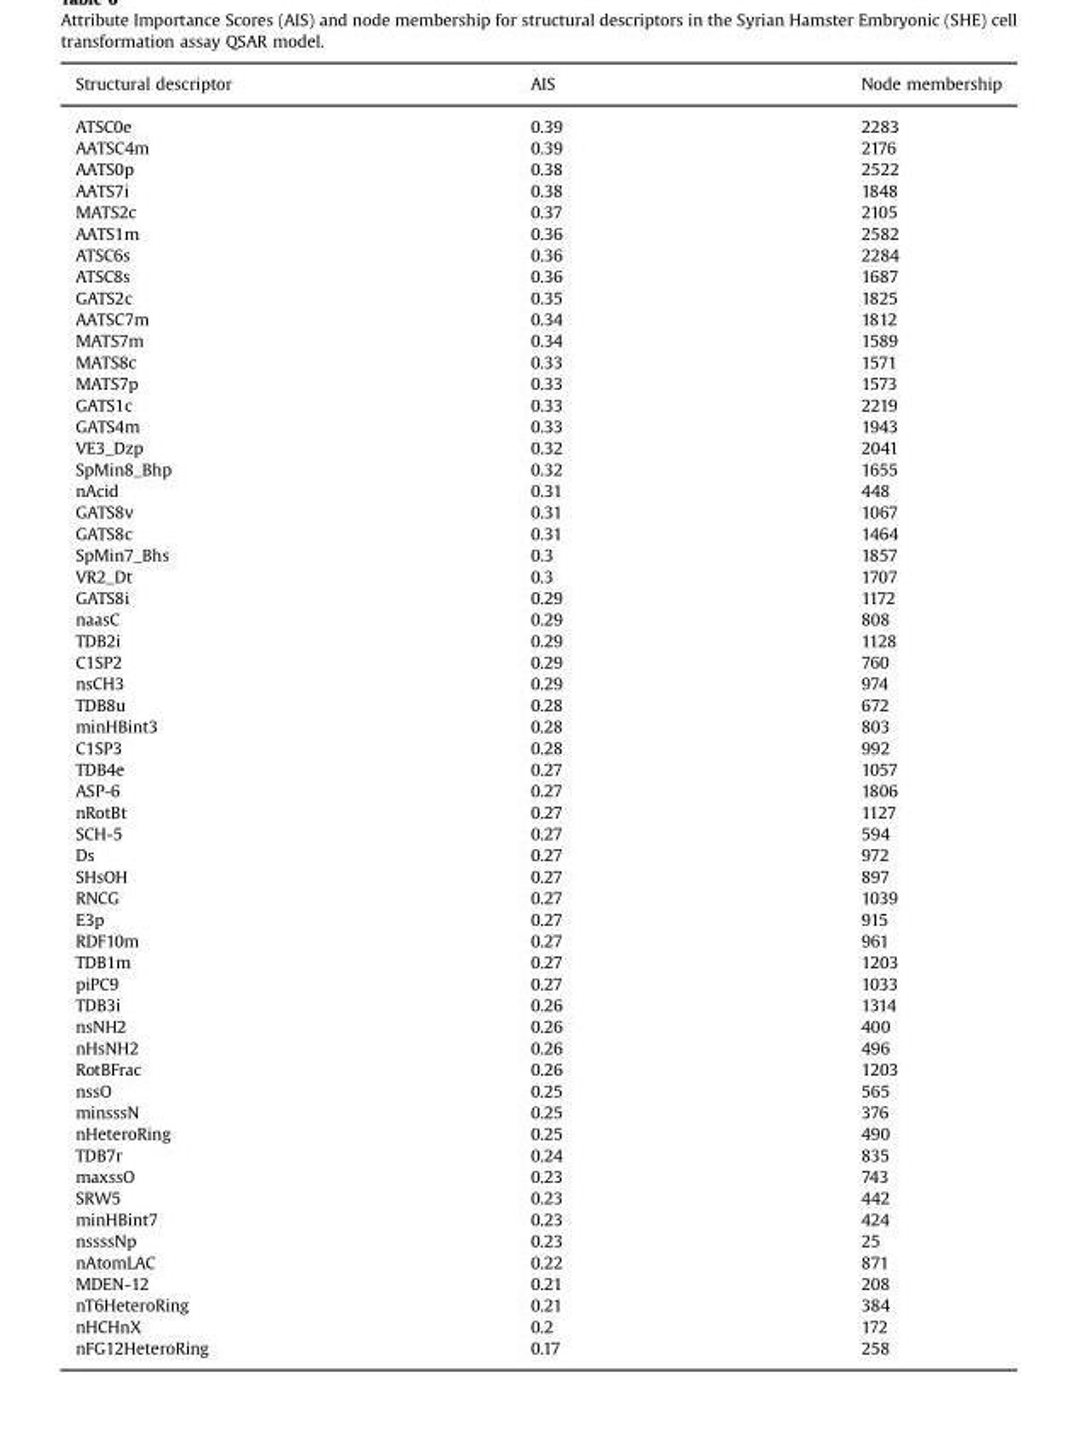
<table><thead><tr><td>Structural descriptor</td><td>AIS</td><td>Node membership</td></tr></thead><tbody><tr><td>ATSC0e</td><td>0.39</td><td>2283</td></tr><tr><td>AATSC4m</td><td>0.39</td><td>2176</td></tr><tr><td>AATS0p</td><td>0.38</td><td>2522</td></tr><tr><td>AATS7i</td><td>0.38</td><td>1848</td></tr><tr><td>MATS2c</td><td>0.37</td><td>2105</td></tr><tr><td>AATS1m</td><td>0.36</td><td>2582</td></tr><tr><td>ATSC6s</td><td>0.36</td><td>2284</td></tr><tr><td>ATSC8s</td><td>0.36</td><td>1687</td></tr><tr><td>GATS2c</td><td>0.35</td><td>1825</td></tr><tr><td>AATSC7m</td><td>0.34</td><td>1812</td></tr><tr><td>MATS7m</td><td>0.34</td><td>1589</td></tr><tr><td>MATS8c</td><td>0.33</td><td>1571</td></tr><tr><td>MATS7p</td><td>0.33</td><td>1573</td></tr><tr><td>GATS1c</td><td>0.33</td><td>2219</td></tr><tr><td>GATS4m</td><td>0.33</td><td>1943</td></tr><tr><td>VE3_Dzp</td><td>0.32</td><td>2041</td></tr><tr><td>SpMin8_Bhp</td><td>0.32</td><td>1655</td></tr><tr><td>nAcid</td><td>0.31</td><td>448</td></tr><tr><td>GATS8v</td><td>0.31</td><td>1067</td></tr><tr><td>GATS8c</td><td>0.31</td><td>1464</td></tr><tr><td>SpMin7_Bhs</td><td>0.3</td><td>1857</td></tr><tr><td>VR2_Dt</td><td>0.3</td><td>1707</td></tr><tr><td>GATS8i</td><td>0.29</td><td>1172</td></tr><tr><td>naasC</td><td>0.29</td><td>808</td></tr><tr><td>TDB2i</td><td>0.29</td><td>1128</td></tr><tr><td>C1SP2</td><td>0.29</td><td>760</td></tr><tr><td>nsCH3</td><td>0.29</td><td>974</td></tr><tr><td>TDB8u</td><td>0.28</td><td>672</td></tr><tr><td>minHBint3</td><td>0.28</td><td>803</td></tr><tr><td>C1SP3</td><td>0.28</td><td>992</td></tr><tr><td>TDB4e</td><td>0.27</td><td>1057</td></tr><tr><td>ASP-6</td><td>0.27</td><td>1806</td></tr><tr><td>nRotBt</td><td>0.27</td><td>1127</td></tr><tr><td>SCH-5</td><td>0.27</td><td>594</td></tr><tr><td>Ds</td><td>0.27</td><td>972</td></tr><tr><td>SHsOH</td><td>0.27</td><td>897</td></tr><tr><td>RNCG</td><td>0.27</td><td>1039</td></tr><tr><td>E3p</td><td>0.27</td><td>915</td></tr><tr><td>RDF10m</td><td>0.27</td><td>961</td></tr><tr><td>TDB1m</td><td>0.27</td><td>1203</td></tr><tr><td>piPC9</td><td>0.27</td><td>1033</td></tr><tr><td>TDB3i</td><td>0.26</td><td>1314</td></tr><tr><td>nsNH2</td><td>0.26</td><td>400</td></tr><tr><td>nHsNH2</td><td>0.26</td><td>496</td></tr><tr><td>RotBFrac</td><td>0.26</td><td>1203</td></tr><tr><td>nssO</td><td>0.25</td><td>565</td></tr><tr><td>minsssN</td><td>0.25</td><td>376</td></tr><tr><td>nHeteroRing</td><td>0.25</td><td>490</td></tr><tr><td>TDB7r</td><td>0.24</td><td>835</td></tr><tr><td>maxssO</td><td>0.23</td><td>743</td></tr><tr><td>SRW5</td><td>0.23</td><td>442</td></tr><tr><td>minHBint7</td><td>0.23</td><td>424</td></tr><tr><td>nssssNp</td><td>0.23</td><td>25</td></tr><tr><td>nAtomLAC</td><td>0.22</td><td>871</td></tr><tr><td>MDEN-12</td><td>0.21</td><td>208</td></tr><tr><td>nT6HeteroRing</td><td>0.21</td><td>384</td></tr><tr><td>nHCHnX</td><td>0.2</td><td>172</td></tr><tr><td>nFG12HeteroRing</td><td>0.17</td><td>258</td></tr></tbody></table>